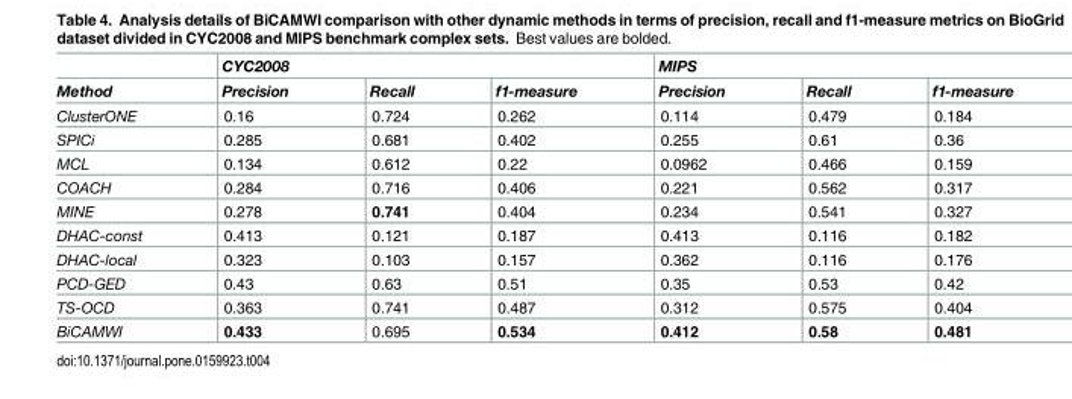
<table><thead><tr><td rowspan="2">Method</td><td colspan="3">CYC2008</td><td colspan="3">MIPS</td></tr><tr><td>Precision</td><td>Recall</td><td>f1-measure</td><td>Precision</td><td>Recall</td><td>f1-measure</td></tr></thead><tbody><tr><td>ClusterONE</td><td>0.16</td><td>0.724</td><td>0.262</td><td>0.114</td><td>0.479</td><td>0.184</td></tr><tr><td>SPICi</td><td>0.285</td><td>0.681</td><td>0.402</td><td>0.255</td><td>0.61</td><td>0.36</td></tr><tr><td>MCL</td><td>0.134</td><td>0.612</td><td>0.22</td><td>0.0962</td><td>0.466</td><td>0.159</td></tr><tr><td>COACH</td><td>0.284</td><td>0.716</td><td>0.406</td><td>0.221</td><td>0.562</td><td>0.317</td></tr><tr><td>MINE</td><td>0.278</td><td>0.741</td><td>0.404</td><td>0.234</td><td>0.541</td><td>0.327</td></tr><tr><td>DHAC-const</td><td>0.413</td><td>0.121</td><td>0.187</td><td>0.413</td><td>0.116</td><td>0.182</td></tr><tr><td>DHAC-local</td><td>0.323</td><td>0.103</td><td>0.157</td><td>0.362</td><td>0.116</td><td>0.176</td></tr><tr><td>PCD-GED</td><td>0.43</td><td>0.63</td><td>0.51</td><td>0.35</td><td>0.53</td><td>0.42</td></tr><tr><td>TS-OCD</td><td>0.363</td><td>0.741</td><td>0.487</td><td>0.312</td><td>0.575</td><td>0.404</td></tr><tr><td>BiCAMWI</td><td>0.433</td><td>0.695</td><td>0.534</td><td>0.412</td><td>0.58</td><td>0.481</td></tr></tbody></table>